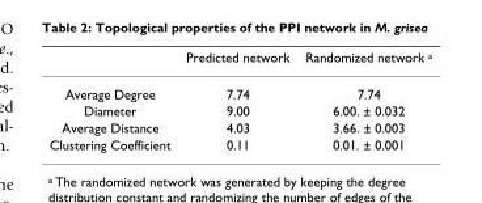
<table><thead><tr><td></td><td>Predicted network</td><td>Randomized network <sup>a</sup></td></tr></thead><tbody><tr><td>Average Degree</td><td>7.74</td><td>7.74</td></tr><tr><td>Diameter</td><td>9.00</td><td>6.00. ± 0.032</td></tr><tr><td>Average Distance</td><td>4.03</td><td>3.66. ± 0.003</td></tr><tr><td>Clustering Coefficient</td><td>0.11</td><td>0.01. ± 0.001</td></tr></tbody></table>